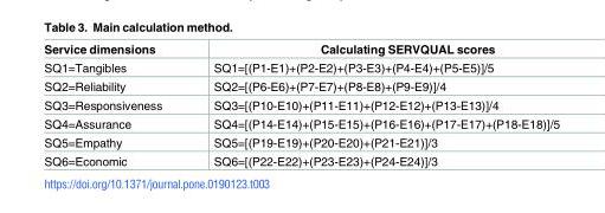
<table><thead><tr><td>Service dimensions</td><td>Calculating SERVQUAL scores</td></tr></thead><tbody><tr><td>SQ1=Tangibles</td><td>SQ1=[(P1-E1)+(P2-E2)+(P3-E3)+(P4-E4)+(P5-E5)]/5</td></tr><tr><td>SQ2=Reliability</td><td>SQ2=[(P6-E6)+(P7-E7)+(P8-E8)+(P9-E9)]/4</td></tr><tr><td>SQ3=Responsiveness</td><td>SQ3=[(P10-E10)+(P11-E11)+(P12-E12)+(P13-E13)]/4</td></tr><tr><td>SQ4=Assurance</td><td>SQ4=[(P14-E14)+(P15-E15)+(P16-E16)+(P17-E17)+(P18-E18)]/5</td></tr><tr><td>SQ5=Empathy</td><td>SQ5=[(P19-E19)+(P20-E20)+(P21-E21)]/3</td></tr><tr><td>SQ6=Economic</td><td>SQ6=[(P22-E22)+(P23-E23)+(P24-E24)]/3</td></tr></tbody></table>